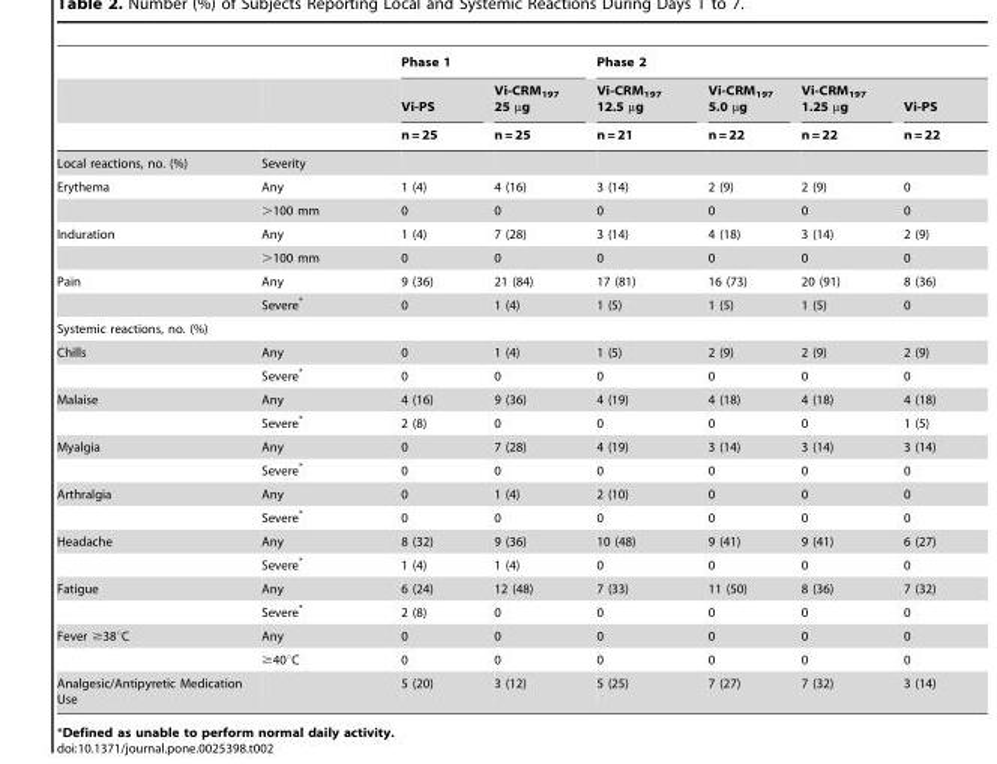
<table><thead><tr><td rowspan="3"></td><td rowspan="3"></td><td colspan="2">Phase 1</td><td colspan="4">Phase 2</td></tr><tr><td rowspan="2">Vi-PS n = 25</td><td rowspan="2">Vi-CRM<sub>197</sub> 25 µg n = 25</td><td rowspan="2">Vi-CRM<sub>197</sub> 12.5 µg n = 21</td><td rowspan="2">Vi-CRM<sub>197</sub> 5.0 µg n = 22</td><td rowspan="2">Vi-CRM<sub>197</sub> 1.25 µg n = 22</td><td rowspan="2">Vi-PS n = 22</td></tr><tr></tr></thead><tbody><tr><td>Local reactions, no. (%)</td><td>Severity</td><td></td><td></td><td></td><td></td><td></td><td></td></tr><tr><td rowspan="2">Erythema</td><td>Any</td><td>1 (4)</td><td>4 (16)</td><td>3 (14)</td><td>2 (9)</td><td>2 (9)</td><td>0</td></tr><tr><td>&gt;100 mm</td><td>0</td><td>0</td><td>0</td><td>0</td><td>0</td><td>0</td></tr><tr><td rowspan="2">Induration</td><td>Any</td><td>1 (4)</td><td>7 (28)</td><td>3 (14)</td><td>4 (18)</td><td>3 (14)</td><td>2 (9)</td></tr><tr><td>&gt;100 mm</td><td>0</td><td>0</td><td>0</td><td>0</td><td>0</td><td>0</td></tr><tr><td rowspan="2">Pain</td><td>Any</td><td>9 (36)</td><td>21 (84)</td><td>17 (81)</td><td>16 (73)</td><td>20 (91)</td><td>8 (36)</td></tr><tr><td>Severe*</td><td>0</td><td>1 (4)</td><td>1 (5)</td><td>1 (5)</td><td>1 (5)</td><td>0</td></tr><tr><td colspan="8">Systemic reactions, no. (%)</td></tr><tr><td rowspan="2">Chills</td><td>Any</td><td>0</td><td>1 (4)</td><td>1 (5)</td><td>2 (9)</td><td>2 (9)</td><td>2 (9)</td></tr><tr><td>Severe*</td><td>0</td><td>0</td><td>0</td><td>0</td><td>0</td><td>0</td></tr><tr><td rowspan="2">Malaise</td><td>Any</td><td>4 (16)</td><td>9 (36)</td><td>4 (19)</td><td>4 (18)</td><td>4 (18)</td><td>4 (18)</td></tr><tr><td>Severe*</td><td>2 (8)</td><td>0</td><td>0</td><td>0</td><td>0</td><td>1 (5)</td></tr><tr><td rowspan="2">Myalgia</td><td>Any</td><td>0</td><td>7 (28)</td><td>4 (19)</td><td>3 (14)</td><td>3 (14)</td><td>3 (14)</td></tr><tr><td>Severe*</td><td>0</td><td>0</td><td>0</td><td>0</td><td>0</td><td>0</td></tr><tr><td rowspan="2">Arthralgia</td><td>Any</td><td>0</td><td>1 (4)</td><td>2 (10)</td><td>0</td><td>0</td><td>0</td></tr><tr><td>Severe*</td><td>0</td><td>0</td><td>0</td><td>0</td><td>0</td><td>0</td></tr><tr><td rowspan="2">Headache</td><td>Any</td><td>8 (32)</td><td>9 (36)</td><td>10 (48)</td><td>9 (41)</td><td>9 (41)</td><td>6 (27)</td></tr><tr><td>Severe*</td><td>1 (4)</td><td>1 (4)</td><td>0</td><td>0</td><td>0</td><td>0</td></tr><tr><td rowspan="2">Fatigue</td><td>Any</td><td>6 (24)</td><td>12 (48)</td><td>7 (33)</td><td>11 (50)</td><td>8 (36)</td><td>7 (32)</td></tr><tr><td>Severe*</td><td>2 (8)</td><td>0</td><td>0</td><td>0</td><td>0</td><td>0</td></tr><tr><td rowspan="2">Fever ≥38°C</td><td>Any</td><td>0</td><td>0</td><td>0</td><td>0</td><td>0</td><td>0</td></tr><tr><td>≥40°C</td><td>0</td><td>0</td><td>0</td><td>0</td><td>0</td><td>0</td></tr><tr><td>Analgesic/Antipyretic Medication Use</td><td></td><td>5 (20)</td><td>3 (12)</td><td>5 (25)</td><td>7 (27)</td><td>7 (32)</td><td>3 (14)</td></tr></tbody></table>